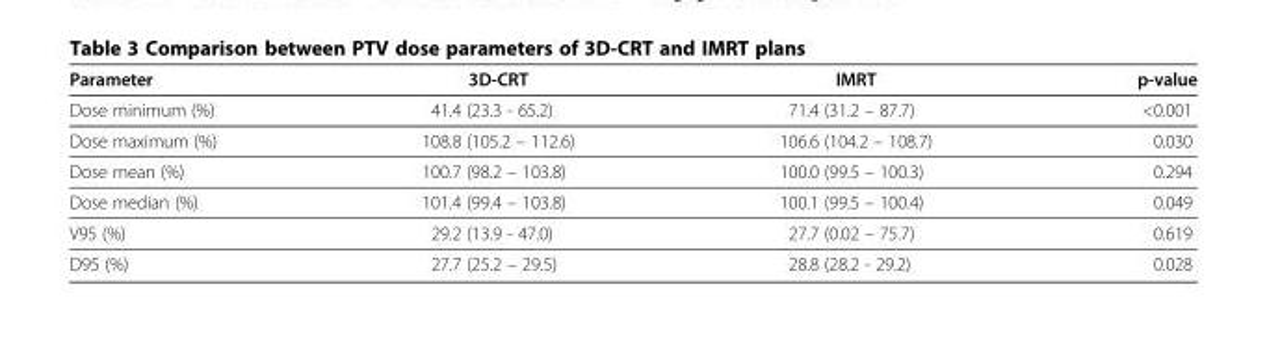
<table><thead><tr><td>Parameter</td><td>3D-CRT</td><td>IMRT</td><td>p-value</td></tr></thead><tbody><tr><td>Dose minimum (%)</td><td>41.4 (23.3 - 65.2)</td><td>71.4 (31.2 – 87.7)</td><td>&lt;0.001</td></tr><tr><td>Dose maximum (%)</td><td>108.8 (105.2 – 112.6)</td><td>106.6 (104.2 – 108.7)</td><td>0.030</td></tr><tr><td>Dose mean (%)</td><td>100.7 (98.2 – 103.8)</td><td>100.0 (99.5 – 100.3)</td><td>0.294</td></tr><tr><td>Dose median (%)</td><td>101.4 (99.4 – 103.8)</td><td>100.1 (99.5 – 100.4)</td><td>0.049</td></tr><tr><td>V95 (%)</td><td>29.2 (13.9 - 47.0)</td><td>27.7 (0.02 – 75.7)</td><td>0.619</td></tr><tr><td>D95 (%)</td><td>27.7 (25.2 – 29.5)</td><td>28.8 (28.2 - 29.2)</td><td>0.028</td></tr></tbody></table>